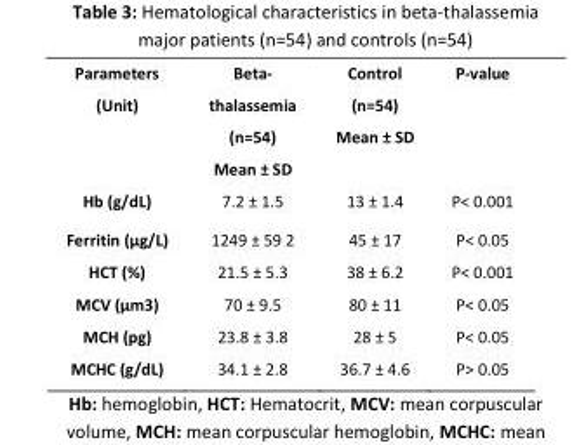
<table><tbody><tr><td>Parameters (Unit)</td><td>Beta- thalassemia (n=54) Mean ± SD</td><td>Control (n=54) Mean ± SD</td><td>P-value</td></tr><tr><td>Hb (g/dL)</td><td>7.2 ± 1.5</td><td>13 ± 1.4</td><td>P&lt; 0.001</td></tr><tr><td>Ferritin (μg/L)</td><td>1249 ± 59 2</td><td>45 ± 17</td><td>P&lt; 0.05</td></tr><tr><td>HCT (%)</td><td>21.5 ± 5.3</td><td>38 ± 6.2</td><td>P&lt; 0.001</td></tr><tr><td>MCV (μm3)</td><td>70 ± 9.5</td><td>80 ± 11</td><td>P&lt; 0.05</td></tr><tr><td>MCH (pg)</td><td>23.8 ± 3.8</td><td>28 ± 5</td><td>P&lt; 0.05</td></tr><tr><td>MCHC (g/dL)</td><td>34.1 ± 2.8</td><td>36.7 ± 4.6</td><td>P&gt; 0.05</td></tr></tbody></table>